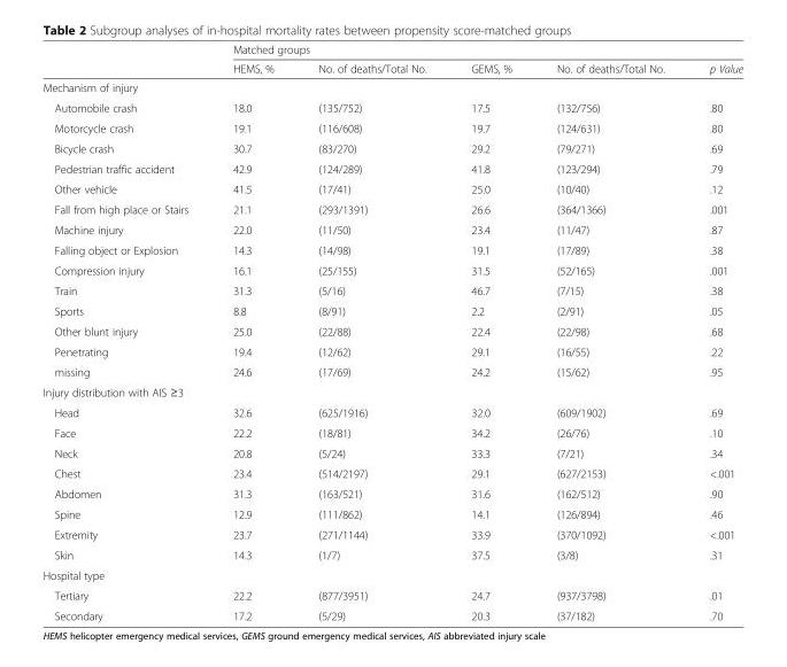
<table><thead><tr><td rowspan="2"></td><td colspan="5">Matched groups</td></tr><tr><td>HEMS, %</td><td>No. of deaths/Total No.</td><td>GEMS, %</td><td>No. of deaths/Total No.</td><td>p Value</td></tr></thead><tbody><tr><td colspan="6">Mechanism of injury</td></tr><tr><td>Automobile crash</td><td>18.0</td><td>(135/752)</td><td>17.5</td><td>(132/756)</td><td>.80</td></tr><tr><td>Motorcycle crash</td><td>19.1</td><td>(116/608)</td><td>19.7</td><td>(124/631)</td><td>.80</td></tr><tr><td>Bicycle crash</td><td>30.7</td><td>(83/270)</td><td>29.2</td><td>(79/271)</td><td>.69</td></tr><tr><td>Pedestrian traffic accident</td><td>42.9</td><td>(124/289)</td><td>41.8</td><td>(123/294)</td><td>.79</td></tr><tr><td>Other vehicle</td><td>41.5</td><td>(17/41)</td><td>25.0</td><td>(10/40)</td><td>.12</td></tr><tr><td>Fall from high place or Stairs</td><td>21.1</td><td>(293/1391)</td><td>26.6</td><td>(364/1366)</td><td>.001</td></tr><tr><td>Machine injury</td><td>22.0</td><td>(11/50)</td><td>23.4</td><td>(11/47)</td><td>.87</td></tr><tr><td>Falling object or Explosion</td><td>14.3</td><td>(14/98)</td><td>19.1</td><td>(17/89)</td><td>.38</td></tr><tr><td>Compression injury</td><td>16.1</td><td>(25/155)</td><td>31.5</td><td>(52/165)</td><td>.001</td></tr><tr><td>Train</td><td>31.3</td><td>(5/16)</td><td>46.7</td><td>(7/15)</td><td>.38</td></tr><tr><td>Sports</td><td>8.8</td><td>(8/91)</td><td>2.2</td><td>(2/91)</td><td>.05</td></tr><tr><td>Other blunt injury</td><td>25.0</td><td>(22/88)</td><td>22.4</td><td>(22/98)</td><td>.68</td></tr><tr><td>Penetrating</td><td>19.4</td><td>(12/62)</td><td>29.1</td><td>(16/55)</td><td>.22</td></tr><tr><td>missing</td><td>24.6</td><td>(17/69)</td><td>24.2</td><td>(15/62)</td><td>.95</td></tr><tr><td colspan="6">Injury distribution with AIS ≥3</td></tr><tr><td>Head</td><td>32.6</td><td>(625/1916)</td><td>32.0</td><td>(609/1902)</td><td>.69</td></tr><tr><td>Face</td><td>22.2</td><td>(18/81)</td><td>34.2</td><td>(26/76)</td><td>.10</td></tr><tr><td>Neck</td><td>20.8</td><td>(5/24)</td><td>33.3</td><td>(7/21)</td><td>.34</td></tr><tr><td>Chest</td><td>23.4</td><td>(514/2197)</td><td>29.1</td><td>(627/2153)</td><td>&lt;.001</td></tr><tr><td>Abdomen</td><td>31.3</td><td>(163/521)</td><td>31.6</td><td>(162/512)</td><td>.90</td></tr><tr><td>Spine</td><td>12.9</td><td>(111/862)</td><td>14.1</td><td>(126/894)</td><td>.46</td></tr><tr><td>Extremity</td><td>23.7</td><td>(271/1144)</td><td>33.9</td><td>(370/1092)</td><td>&lt;.001</td></tr><tr><td>Skin</td><td>14.3</td><td>(1/7)</td><td>37.5</td><td>(3/8)</td><td>.31</td></tr><tr><td colspan="6">Hospital type</td></tr><tr><td>Tertiary</td><td>22.2</td><td>(877/3951)</td><td>24.7</td><td>(937/3798)</td><td>.01</td></tr><tr><td>Secondary</td><td>17.2</td><td>(5/29)</td><td>20.3</td><td>(37/182)</td><td>.70</td></tr></tbody></table>